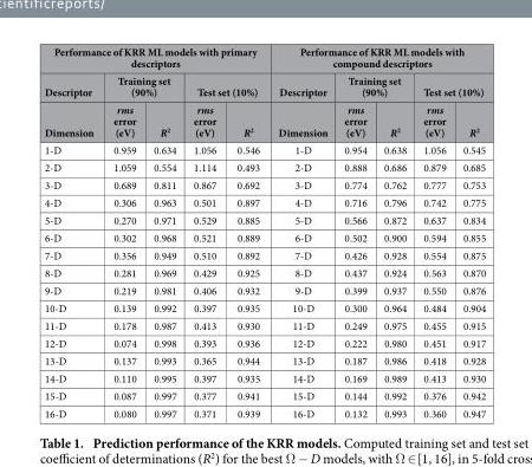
<table><thead><tr><td colspan="5">Performance of KRR ML models with primary descriptors</td><td colspan="5">Performance of KRR ML models with compound descriptors</td></tr><tr><td rowspan="2">Descriptor Dimension</td><td colspan="2">Training set (90%)</td><td colspan="2">Test set (10%)</td><td rowspan="2">Descriptor Dimension</td><td colspan="2">Training set (90%)</td><td colspan="2">Test set (10%)</td></tr><tr><td>rms error (eV)</td><td>R<sup>2</sup></td><td>rms error (eV)</td><td>R<sup>2</sup></td><td>rms error (eV)</td><td>R<sup>2</sup></td><td>rms error (eV)</td><td>R<sup>2</sup></td></tr></thead><tbody><tr><td>1-D</td><td>0.959</td><td>0.634</td><td>1.056</td><td>0.546</td><td>1-D</td><td>0.954</td><td>0.638</td><td>1.056</td><td>0.545</td></tr><tr><td>2-D</td><td>1.059</td><td>0.554</td><td>1.114</td><td>0.493</td><td>2-D</td><td>0.888</td><td>0.686</td><td>0.879</td><td>0.685</td></tr><tr><td>3-D</td><td>0.689</td><td>0.811</td><td>0.867</td><td>0.692</td><td>3-D</td><td>0.774</td><td>0.762</td><td>0.777</td><td>0.753</td></tr><tr><td>4-D</td><td>0.306</td><td>0.963</td><td>0.501</td><td>0.897</td><td>4-D</td><td>0.716</td><td>0.796</td><td>0.742</td><td>0.775</td></tr><tr><td>5-D</td><td>0.270</td><td>0.971</td><td>0.529</td><td>0.885</td><td>5-D</td><td>0.566</td><td>0.872</td><td>0.637</td><td>0.834</td></tr><tr><td>6-D</td><td>0.302</td><td>0.968</td><td>0.521</td><td>0.889</td><td>6-D</td><td>0.502</td><td>0.900</td><td>0.594</td><td>0.855</td></tr><tr><td>7-D</td><td>0.356</td><td>0.949</td><td>0.510</td><td>0.892</td><td>7-D</td><td>0.426</td><td>0.928</td><td>0.554</td><td>0.875</td></tr><tr><td>8-D</td><td>0.281</td><td>0.969</td><td>0.429</td><td>0.925</td><td>8-D</td><td>0.437</td><td>0.924</td><td>0.563</td><td>0.870</td></tr><tr><td>9-D</td><td>0.219</td><td>0.981</td><td>0.406</td><td>0.932</td><td>9-D</td><td>0.399</td><td>0.937</td><td>0.550</td><td>0.876</td></tr><tr><td>10-D</td><td>0.139</td><td>0.992</td><td>0.397</td><td>0.935</td><td>10-D</td><td>0.300</td><td>0.964</td><td>0.484</td><td>0.904</td></tr><tr><td>11-D</td><td>0.178</td><td>0.987</td><td>0.413</td><td>0.930</td><td>11-D</td><td>0.249</td><td>0.975</td><td>0.455</td><td>0.915</td></tr><tr><td>12-D</td><td>0.074</td><td>0.998</td><td>0.393</td><td>0.936</td><td>12-D</td><td>0.222</td><td>0.980</td><td>0.451</td><td>0.917</td></tr><tr><td>13-D</td><td>0.137</td><td>0.993</td><td>0.365</td><td>0.944</td><td>13-D</td><td>0.187</td><td>0.986</td><td>0.418</td><td>0.928</td></tr><tr><td>14-D</td><td>0.110</td><td>0.995</td><td>0.397</td><td>0.935</td><td>14-D</td><td>0.169</td><td>0.989</td><td>0.413</td><td>0.930</td></tr><tr><td>15-D</td><td>0.087</td><td>0.997</td><td>0.377</td><td>0.941</td><td>15-D</td><td>0.144</td><td>0.992</td><td>0.376</td><td>0.942</td></tr><tr><td>16-D</td><td>0.080</td><td>0.997</td><td>0.371</td><td>0.939</td><td>16-D</td><td>0.132</td><td>0.993</td><td>0.360</td><td>0.947</td></tr></tbody></table>